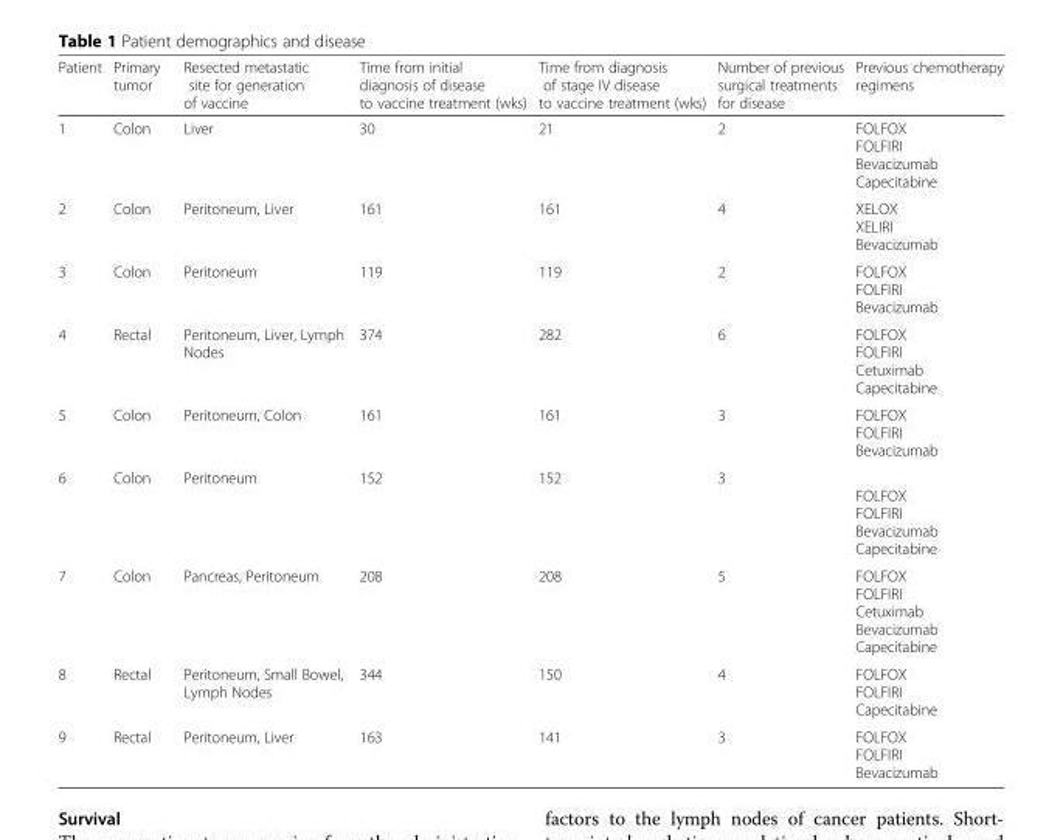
<table><thead><tr><td>Patient</td><td>Primary tumor</td><td>Resected metastatic site for generation of vaccine</td><td>Time from initial diagnosis of disease to vaccine treatment (wks)</td><td>Time from diagnosis of stage IV disease to vaccine treatment (wks)</td><td>Number of previous surgical treatments for disease</td><td>Previous chemotherapy regimens</td></tr></thead><tbody><tr><td>1</td><td>Colon</td><td>Liver</td><td>30</td><td>21</td><td>2</td><td>FOLFOX FOLFIRI Bevacizumab Capecitabine</td></tr><tr><td>2</td><td>Colon</td><td>Peritoneum, Liver</td><td>161</td><td>161</td><td>4</td><td>XELOX XELIRI Bevacizumab</td></tr><tr><td>3</td><td>Colon</td><td>Peritoneum</td><td>119</td><td>119</td><td>2</td><td>FOLFOX FOLFIRI Bevacizumab</td></tr><tr><td>4</td><td>Rectal</td><td>Peritoneum, Liver, Lymph Nodes</td><td>374</td><td>282</td><td>6</td><td>FOLFOX FOLFIRI Cetuximab Capecitabine</td></tr><tr><td>5</td><td>Colon</td><td>Peritoneum, Colon</td><td>161</td><td>161</td><td>3</td><td>FOLFOX FOLFIRI Bevacizumab</td></tr><tr><td>6</td><td>Colon</td><td>Peritoneum</td><td>152</td><td>152</td><td>3</td><td>FOLFOX FOLFIRI Bevacizumab Capecitabine</td></tr><tr><td>7</td><td>Colon</td><td>Pancreas, Peritoneum</td><td>208</td><td>208</td><td>5</td><td>FOLFOX FOLFIRI Cetuximab Bevacizumab Capecitabine</td></tr><tr><td>8</td><td>Rectal</td><td>Peritoneum, Small Bowel, Lymph Nodes</td><td>344</td><td>150</td><td>4</td><td>FOLFOX FOLFIRI Capecitabine</td></tr><tr><td>9</td><td>Rectal</td><td>Peritoneum, Liver</td><td>163</td><td>141</td><td>3</td><td>FOLFOX FOLFIRI Bevacizumab</td></tr></tbody></table>